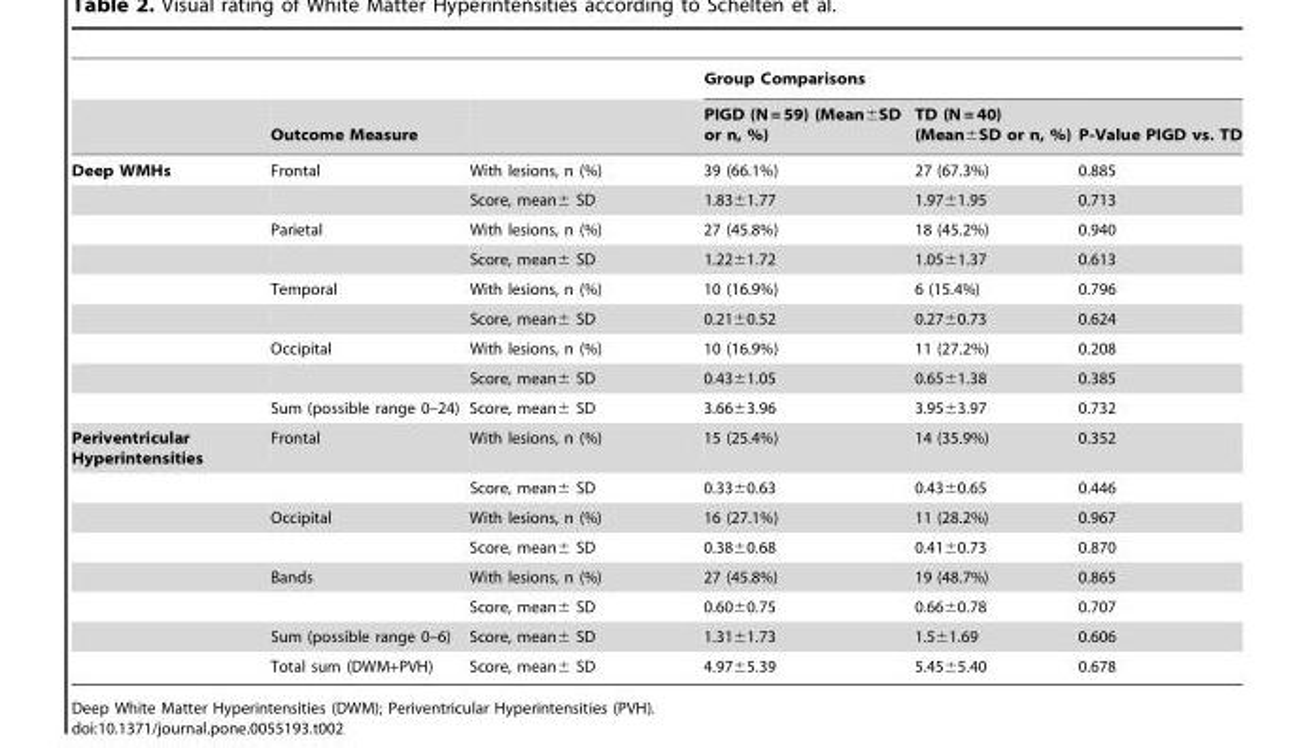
<table><thead><tr><td rowspan="2"></td><td rowspan="2">Outcome Measure</td><td rowspan="2"></td><td colspan="3">Group Comparisons</td></tr><tr><td>PIGD (N = 59) (Mean±SD or n, %)</td><td>TD (N = 40) (Mean±SD or n, %)</td><td>P-Value PIGD vs. TD</td></tr></thead><tbody><tr><td rowspan="9">Deep WMHs</td><td>Frontal</td><td>With lesions, n (%)</td><td>39 (66.1%)</td><td>27 (67.3%)</td><td>0.885</td></tr><tr><td></td><td>Score, mean± SD</td><td>1.83±1.77</td><td>1.97±1.95</td><td>0.713</td></tr><tr><td>Parietal</td><td>With lesions, n (%)</td><td>27 (45.8%)</td><td>18 (45.2%)</td><td>0.940</td></tr><tr><td></td><td>Score, mean± SD</td><td>1.22±1.72</td><td>1.05±1.37</td><td>0.613</td></tr><tr><td>Temporal</td><td>With lesions, n (%)</td><td>10 (16.9%)</td><td>6 (15.4%)</td><td>0.796</td></tr><tr><td></td><td>Score, mean± SD</td><td>0.21±0.52</td><td>0.27±0.73</td><td>0.624</td></tr><tr><td>Occipital</td><td>With lesions, n (%)</td><td>10 (16.9%)</td><td>11 (27.2%)</td><td>0.208</td></tr><tr><td></td><td>Score, mean± SD</td><td>0.43±1.05</td><td>0.65±1.38</td><td>0.385</td></tr><tr><td>Sum (possible range 0–24)</td><td>Score, mean± SD</td><td>3.66±3.96</td><td>3.95±3.97</td><td>0.732</td></tr><tr><td rowspan="8">Periventricular Hyperintensities</td><td>Frontal</td><td>With lesions, n (%)</td><td>15 (25.4%)</td><td>14 (35.9%)</td><td>0.352</td></tr><tr><td></td><td>Score, mean± SD</td><td>0.33±0.63</td><td>0.43±0.65</td><td>0.446</td></tr><tr><td>Occipital</td><td>With lesions, n (%)</td><td>16 (27.1%)</td><td>11 (28.2%)</td><td>0.967</td></tr><tr><td></td><td>Score, mean± SD</td><td>0.38±0.68</td><td>0.41±0.73</td><td>0.870</td></tr><tr><td>Bands</td><td>With lesions, n (%)</td><td>27 (45.8%)</td><td>19 (48.7%)</td><td>0.865</td></tr><tr><td></td><td>Score, mean± SD</td><td>0.60±0.75</td><td>0.66±0.78</td><td>0.707</td></tr><tr><td>Sum (possible range 0–6)</td><td>Score, mean± SD</td><td>1.31±1.73</td><td>1.5±1.69</td><td>0.606</td></tr><tr><td>Total sum (DWM+PVH)</td><td>Score, mean± SD</td><td>4.97±5.39</td><td>5.45±5.40</td><td>0.678</td></tr></tbody></table>